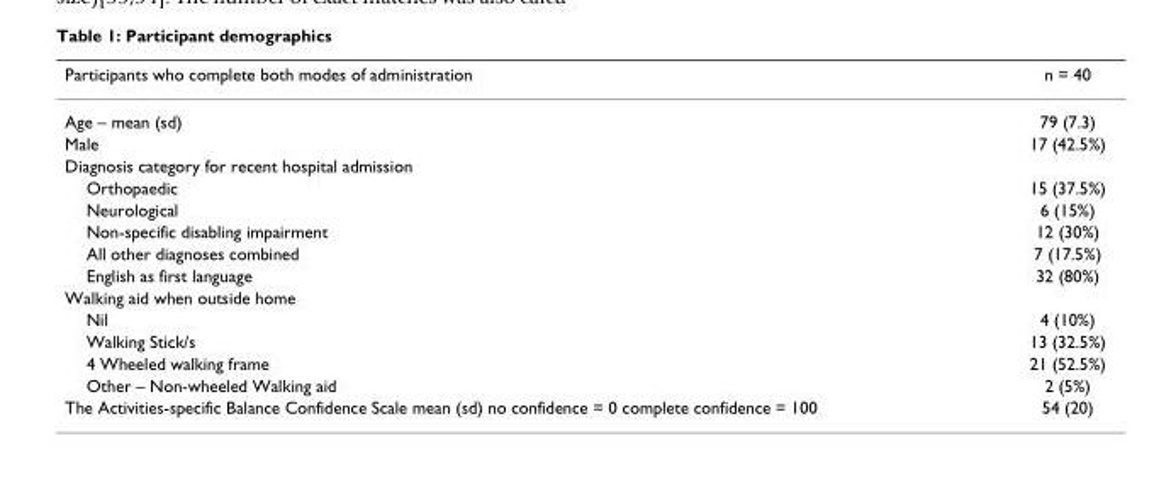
<table><thead><tr><td>Participants who complete both modes of administration</td><td>n = 40</td></tr></thead><tbody><tr><td>Age – mean (sd)</td><td>79 (7.3)</td></tr><tr><td>Male</td><td>17 (42.5%)</td></tr><tr><td colspan="2">Diagnosis category for recent hospital admission</td></tr><tr><td>Orthopaedic</td><td>15 (37.5%)</td></tr><tr><td>Neurological</td><td>6 (15%)</td></tr><tr><td>Non-specific disabling impairment</td><td>12 (30%)</td></tr><tr><td>All other diagnoses combined</td><td>7 (17.5%)</td></tr><tr><td>English as first language</td><td>32 (80%)</td></tr><tr><td colspan="2">Walking aid when outside home</td></tr><tr><td>Nil</td><td>4 (10%)</td></tr><tr><td>Walking Stick/s</td><td>13 (32.5%)</td></tr><tr><td>4 Wheeled walking frame</td><td>21 (52.5%)</td></tr><tr><td>Other – Non-wheeled Walking aid</td><td>2 (5%)</td></tr><tr><td>The Activities-specific Balance Confidence Scale mean (sd) no confidence = 0 complete confidence = 100</td><td>54 (20)</td></tr></tbody></table>